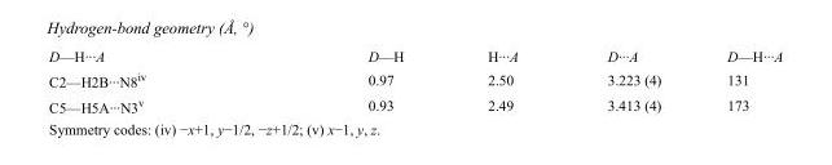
<table><tbody><tr><td>D—H···A</td><td>D—H</td><td>H···A</td><td>D···A</td><td>D—H···A</td></tr><tr><td>C2—H2B···N8<sup>iv</sup></td><td>0.97</td><td>2.50</td><td>3.223 (4)</td><td>131</td></tr><tr><td>C5—H5A···N3<sup>v</sup></td><td>0.93</td><td>2.49</td><td>3.413 (4)</td><td>173</td></tr></tbody></table>